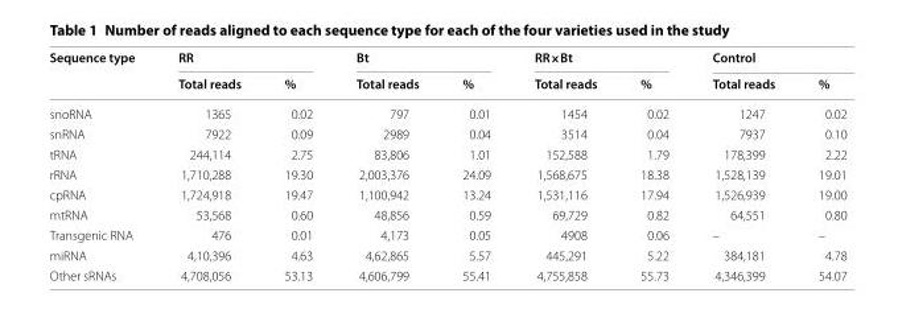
<table><thead><tr><td rowspan="2">Sequence type</td><td colspan="2">RR</td><td colspan="2">Bt</td><td colspan="2">RR×Bt</td><td colspan="2">Control</td></tr><tr><td>Total reads</td><td>%</td><td>Total reads</td><td>%</td><td>Total reads</td><td>%</td><td>Total reads</td><td>%</td></tr></thead><tbody><tr><td>snoRNA</td><td>1365</td><td>0.02</td><td>797</td><td>0.01</td><td>1454</td><td>0.02</td><td>1247</td><td>0.02</td></tr><tr><td>snRNA</td><td>7922</td><td>0.09</td><td>2989</td><td>0.04</td><td>3514</td><td>0.04</td><td>7937</td><td>0.10</td></tr><tr><td>tRNA</td><td>244,114</td><td>2.75</td><td>83,806</td><td>1.01</td><td>152,588</td><td>1.79</td><td>178,399</td><td>2.22</td></tr><tr><td>rRNA</td><td>1,710,288</td><td>19.30</td><td>2,003,376</td><td>24.09</td><td>1,568,675</td><td>18.38</td><td>1,528,139</td><td>19.01</td></tr><tr><td>cpRNA</td><td>1,724,918</td><td>19.47</td><td>1,100,942</td><td>13.24</td><td>1,531,116</td><td>17.94</td><td>1,526,939</td><td>19.00</td></tr><tr><td>mtRNA</td><td>53,568</td><td>0.60</td><td>48,856</td><td>0.59</td><td>69,729</td><td>0.82</td><td>64,551</td><td>0.80</td></tr><tr><td>Transgenic RNA</td><td>476</td><td>0.01</td><td>4,173</td><td>0.05</td><td>4908</td><td>0.06</td><td>–</td><td>–</td></tr><tr><td>miRNA</td><td>4,10,396</td><td>4.63</td><td>4,62,865</td><td>5.57</td><td>445,291</td><td>5.22</td><td>384,181</td><td>4.78</td></tr><tr><td>Other sRNAs</td><td>4,708,056</td><td>53.13</td><td>4,606,799</td><td>55.41</td><td>4,755,858</td><td>55.73</td><td>4,346,399</td><td>54.07</td></tr></tbody></table>